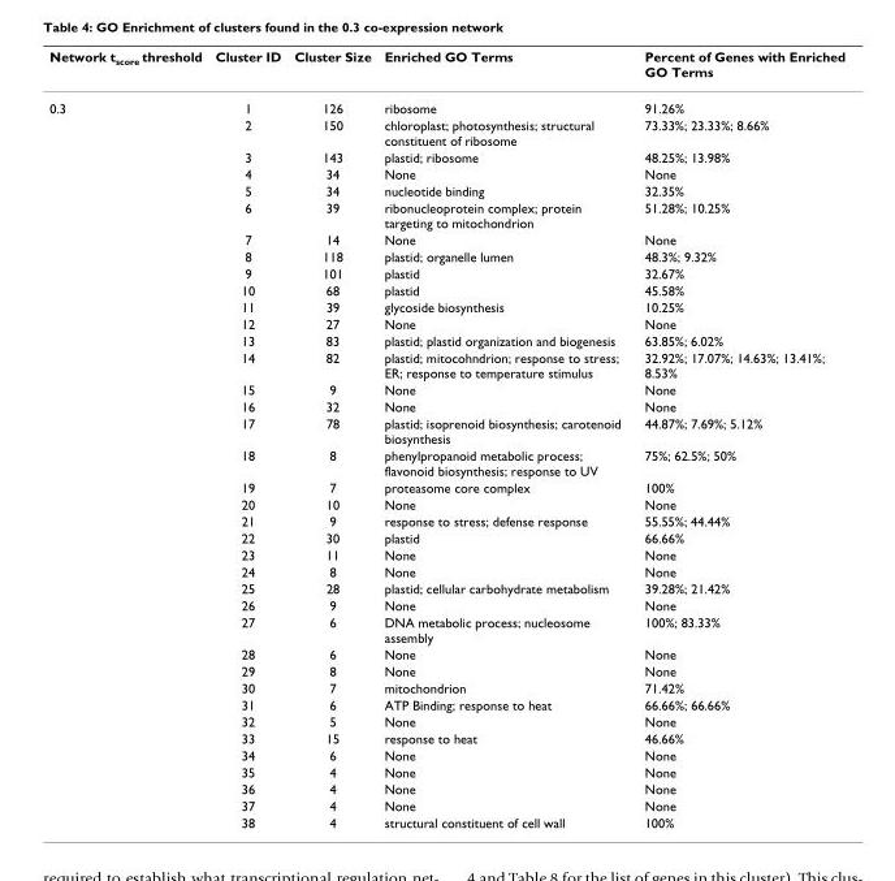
<table><thead><tr><td>Network t<sub>score</sub> threshold</td><td>Cluster ID</td><td>Cluster Size</td><td>Enriched GO Terms</td><td>Percent of Genes with Enriched GO Terms</td></tr></thead><tbody><tr><td rowspan="38">0.3</td><td>1</td><td>126</td><td>ribosome</td><td>91.26%</td></tr><tr><td>2</td><td>150</td><td>chloroplast; photosynthesis; structural constituent of ribosome</td><td>73.33%; 23.33%; 8.66%</td></tr><tr><td>3</td><td>143</td><td>plastid; ribosome</td><td>48.25%; 13.98%</td></tr><tr><td>4</td><td>34</td><td>None</td><td>None</td></tr><tr><td>5</td><td>34</td><td>nucleotide binding</td><td>32.35%</td></tr><tr><td>6</td><td>39</td><td>ribonucleoprotein complex; protein targeting to mitochondrion</td><td>51.28%; 10.25%</td></tr><tr><td>7</td><td>14</td><td>None</td><td>None</td></tr><tr><td>8</td><td>118</td><td>plastid; organelle lumen</td><td>48.3%; 9.32%</td></tr><tr><td>9</td><td>101</td><td>plastid</td><td>32.67%</td></tr><tr><td>10</td><td>68</td><td>plastid</td><td>45.58%</td></tr><tr><td>11</td><td>39</td><td>glycoside biosynthesis</td><td>10.25%</td></tr><tr><td>12</td><td>27</td><td>None</td><td>None</td></tr><tr><td>13</td><td>83</td><td>plastid; plastid organization and biogenesis</td><td>63.85%; 6.02%</td></tr><tr><td>14</td><td>82</td><td>plastid; mitocohndrion; response to stress; ER; response to temperature stimulus</td><td>32.92%; 17.07%; 14.63%; 13.41%; 8.53%</td></tr><tr><td>15</td><td>9</td><td>None</td><td>None</td></tr><tr><td>16</td><td>32</td><td>None</td><td>None</td></tr><tr><td>17</td><td>78</td><td>plastid; isoprenoid biosynthesis; carotenoid biosynthesis</td><td>44.87%; 7.69%; 5.12%</td></tr><tr><td>18</td><td>8</td><td>phenylpropanoid metabolic process; flavonoid biosynthesis; response to UV</td><td>75%; 62.5%; 50%</td></tr><tr><td>19</td><td>7</td><td>proteasome core complex</td><td>100%</td></tr><tr><td>20</td><td>10</td><td>None</td><td>None</td></tr><tr><td>21</td><td>9</td><td>response to stress; defense response</td><td>55.55%; 44.44%</td></tr><tr><td>22</td><td>30</td><td>plastid</td><td>66.66%</td></tr><tr><td>23</td><td>11</td><td>None</td><td>None</td></tr><tr><td>24</td><td>8</td><td>None</td><td>None</td></tr><tr><td>25</td><td>28</td><td>plastid; cellular carbohydrate metabolism</td><td>39.28%; 21.42%</td></tr><tr><td>26</td><td>9</td><td>None</td><td>None</td></tr><tr><td>27</td><td>6</td><td>DNA metabolic process; nucleosome assembly</td><td>100%; 83.33%</td></tr><tr><td>28</td><td>6</td><td>None</td><td>None</td></tr><tr><td>29</td><td>8</td><td>None</td><td>None</td></tr><tr><td>30</td><td>7</td><td>mitochondrion</td><td>71.42%</td></tr><tr><td>31</td><td>6</td><td>ATP Binding; response to heat</td><td>66.66%; 66.66%</td></tr><tr><td>32</td><td>5</td><td>None</td><td>None</td></tr><tr><td>33</td><td>15</td><td>response to heat</td><td>46.66%</td></tr><tr><td>34</td><td>6</td><td>None</td><td>None</td></tr><tr><td>35</td><td>4</td><td>None</td><td>None</td></tr><tr><td>36</td><td>4</td><td>None</td><td>None</td></tr><tr><td>37</td><td>4</td><td>None</td><td>None</td></tr><tr><td>38</td><td>4</td><td>structural constituent of cell wall</td><td>100%</td></tr></tbody></table>